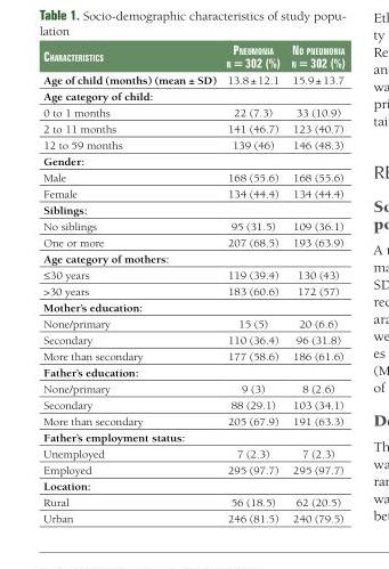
<table><thead><tr><td>CharaCteristiCs</td><td>Pneumonia n = 302 (%)</td><td>no Pneumonia n = 302 (%)</td></tr></thead><tbody><tr><td>Age of child (months) (mean ± SD)</td><td>13.8 ± 12.1</td><td>15.9 ± 13.7</td></tr><tr><td colspan="3">Age category of child:</td></tr><tr><td>0 to 1 months</td><td>22 (7.3)</td><td>33 (10.9)</td></tr><tr><td>2 to 11 months</td><td>141 (46.7)</td><td>123 (40.7)</td></tr><tr><td>12 to 59 months</td><td>139 (46)</td><td>146 (48.3)</td></tr><tr><td colspan="3">Gender:</td></tr><tr><td>Male</td><td>168 (55.6)</td><td>168 (55.6)</td></tr><tr><td>Female</td><td>134 (44.4)</td><td>134 (44.4)</td></tr><tr><td colspan="3">Siblings:</td></tr><tr><td>No siblings</td><td>95 (31.5)</td><td>109 (36.1)</td></tr><tr><td>One or more</td><td>207 (68.5)</td><td>193 (63.9)</td></tr><tr><td colspan="3">Age category of mothers:</td></tr><tr><td>≤30 years</td><td>119 (39.4)</td><td>130 (43)</td></tr><tr><td>&gt;30 years</td><td>183 (60.6)</td><td>172 (57)</td></tr><tr><td colspan="3">Mother’s education:</td></tr><tr><td>None/primary</td><td>15 (5)</td><td>20 (6.6)</td></tr><tr><td>Secondary</td><td>110 (36.4)</td><td>96 (31.8)</td></tr><tr><td>More than secondary</td><td>177 (58.6)</td><td>186 (61.6)</td></tr><tr><td colspan="3">Father’s education:</td></tr><tr><td>None/primary</td><td>9 (3)</td><td>8 (2.6)</td></tr><tr><td>Secondary</td><td>88 (29.1)</td><td>103 (34.1)</td></tr><tr><td>More than secondary</td><td>205 (67.9)</td><td>191 (63.3)</td></tr><tr><td colspan="3">Father’s employment status:</td></tr><tr><td>Unemployed</td><td>7 (2.3)</td><td>7 (2.3)</td></tr><tr><td>Employed</td><td>295 (97.7)</td><td>295 (97.7)</td></tr><tr><td colspan="3">Location:</td></tr><tr><td>Rural</td><td>56 (18.5)</td><td>62 (20.5)</td></tr><tr><td>Urban</td><td>246 (81.5)</td><td>240 (79.5)</td></tr></tbody></table>